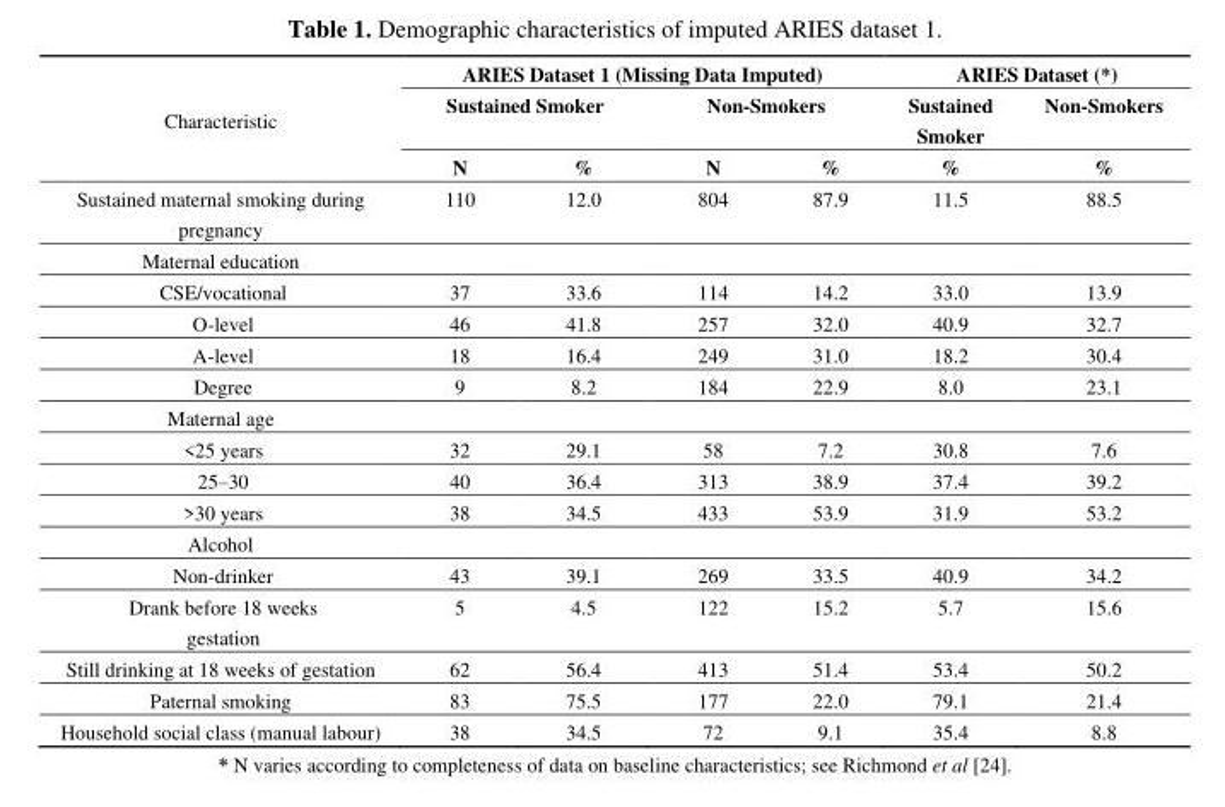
<table><thead><tr><td rowspan="3">Characteristic</td><td colspan="4">ARIES Dataset 1 (Missing Data Imputed)</td><td colspan="2">ARIES Dataset (*)</td></tr><tr><td colspan="2">Sustained Smoker</td><td colspan="2">Non-Smokers</td><td rowspan="2">Sustained Smoker %</td><td rowspan="2">Non-Smokers %</td></tr><tr><td>N</td><td>%</td><td>N</td><td>%</td></tr></thead><tbody><tr><td>Sustained maternal smoking during pregnancy</td><td>110</td><td>12.0</td><td>804</td><td>87.9</td><td>11.5</td><td>88.5</td></tr><tr><td colspan="7">Maternal education</td></tr><tr><td>CSE/vocational</td><td>37</td><td>33.6</td><td>114</td><td>14.2</td><td>33.0</td><td>13.9</td></tr><tr><td>O-level</td><td>46</td><td>41.8</td><td>257</td><td>32.0</td><td>40.9</td><td>32.7</td></tr><tr><td>A-level</td><td>18</td><td>16.4</td><td>249</td><td>31.0</td><td>18.2</td><td>30.4</td></tr><tr><td>Degree</td><td>9</td><td>8.2</td><td>184</td><td>22.9</td><td>8.0</td><td>23.1</td></tr><tr><td colspan="7">Maternal age</td></tr><tr><td>&lt;25 years</td><td>32</td><td>29.1</td><td>58</td><td>7.2</td><td>30.8</td><td>7.6</td></tr><tr><td>25–30</td><td>40</td><td>36.4</td><td>313</td><td>38.9</td><td>37.4</td><td>39.2</td></tr><tr><td>&gt;30 years</td><td>38</td><td>34.5</td><td>433</td><td>53.9</td><td>31.9</td><td>53.2</td></tr><tr><td colspan="7">Alcohol</td></tr><tr><td>Non-drinker</td><td>43</td><td>39.1</td><td>269</td><td>33.5</td><td>40.9</td><td>34.2</td></tr><tr><td>Drank before 18 weeks gestation</td><td>5</td><td>4.5</td><td>122</td><td>15.2</td><td>5.7</td><td>15.6</td></tr><tr><td>Still drinking at 18 weeks of gestation</td><td>62</td><td>56.4</td><td>413</td><td>51.4</td><td>53.4</td><td>50.2</td></tr><tr><td>Paternal smoking</td><td>83</td><td>75.5</td><td>177</td><td>22.0</td><td>79.1</td><td>21.4</td></tr><tr><td>Household social class (manual labour)</td><td>38</td><td>34.5</td><td>72</td><td>9.1</td><td>35.4</td><td>8.8</td></tr></tbody></table>